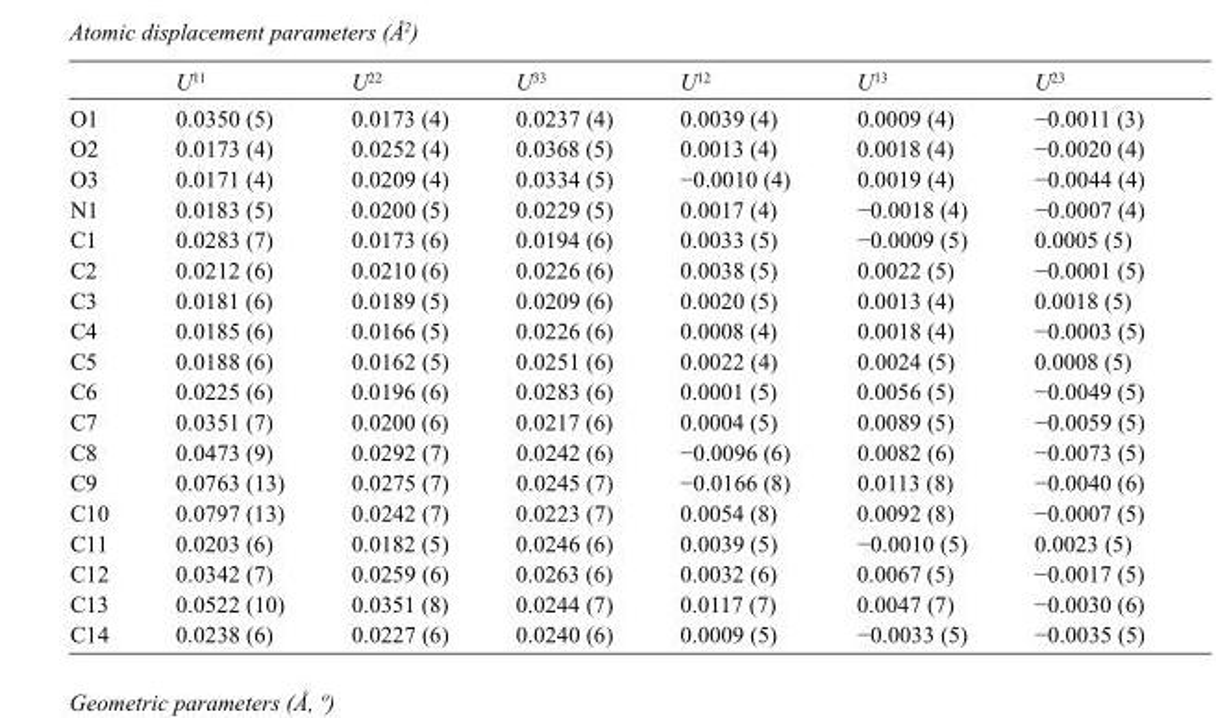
<table><thead><tr><td></td><td>U<sup>11</sup></td><td>U<sup>22</sup></td><td>U<sup>33</sup></td><td>U<sup>12</sup></td><td>U<sup>13</sup></td><td>U<sup>23</sup></td></tr></thead><tbody><tr><td>O1</td><td>0.0350 (5)</td><td>0.0173 (4)</td><td>0.0237 (4)</td><td>0.0039 (4)</td><td>0.0009 (4)</td><td>−0.0011 (3)</td></tr><tr><td>O2</td><td>0.0173 (4)</td><td>0.0252 (4)</td><td>0.0368 (5)</td><td>0.0013 (4)</td><td>0.0018 (4)</td><td>−0.0020 (4)</td></tr><tr><td>O3</td><td>0.0171 (4)</td><td>0.0209 (4)</td><td>0.0334 (5)</td><td>−0.0010 (4)</td><td>0.0019 (4)</td><td>−0.0044 (4)</td></tr><tr><td>N1</td><td>0.0183 (5)</td><td>0.0200 (5)</td><td>0.0229 (5)</td><td>0.0017 (4)</td><td>−0.0018 (4)</td><td>−0.0007 (4)</td></tr><tr><td>C1</td><td>0.0283 (7)</td><td>0.0173 (6)</td><td>0.0194 (6)</td><td>0.0033 (5)</td><td>−0.0009 (5)</td><td>0.0005 (5)</td></tr><tr><td>C2</td><td>0.0212 (6)</td><td>0.0210 (6)</td><td>0.0226 (6)</td><td>0.0038 (5)</td><td>0.0022 (5)</td><td>−0.0001 (5)</td></tr><tr><td>C3</td><td>0.0181 (6)</td><td>0.0189 (5)</td><td>0.0209 (6)</td><td>0.0020 (5)</td><td>0.0013 (4)</td><td>0.0018 (5)</td></tr><tr><td>C4</td><td>0.0185 (6)</td><td>0.0166 (5)</td><td>0.0226 (6)</td><td>0.0008 (4)</td><td>0.0018 (4)</td><td>−0.0003 (5)</td></tr><tr><td>C5</td><td>0.0188 (6)</td><td>0.0162 (5)</td><td>0.0251 (6)</td><td>0.0022 (4)</td><td>0.0024 (5)</td><td>0.0008 (5)</td></tr><tr><td>C6</td><td>0.0225 (6)</td><td>0.0196 (6)</td><td>0.0283 (6)</td><td>0.0001 (5)</td><td>0.0056 (5)</td><td>−0.0049 (5)</td></tr><tr><td>C7</td><td>0.0351 (7)</td><td>0.0200 (6)</td><td>0.0217 (6)</td><td>0.0004 (5)</td><td>0.0089 (5)</td><td>−0.0059 (5)</td></tr><tr><td>C8</td><td>0.0473 (9)</td><td>0.0292 (7)</td><td>0.0242 (6)</td><td>−0.0096 (6)</td><td>0.0082 (6)</td><td>−0.0073 (5)</td></tr><tr><td>C9</td><td>0.0763 (13)</td><td>0.0275 (7)</td><td>0.0245 (7)</td><td>−0.0166 (8)</td><td>0.0113 (8)</td><td>−0.0040 (6)</td></tr><tr><td>C10</td><td>0.0797 (13)</td><td>0.0242 (7)</td><td>0.0223 (7)</td><td>0.0054 (8)</td><td>0.0092 (8)</td><td>−0.0007 (5)</td></tr><tr><td>C11</td><td>0.0203 (6)</td><td>0.0182 (5)</td><td>0.0246 (6)</td><td>0.0039 (5)</td><td>−0.0010 (5)</td><td>0.0023 (5)</td></tr><tr><td>C12</td><td>0.0342 (7)</td><td>0.0259 (6)</td><td>0.0263 (6)</td><td>0.0032 (6)</td><td>0.0067 (5)</td><td>−0.0017 (5)</td></tr><tr><td>C13</td><td>0.0522 (10)</td><td>0.0351 (8)</td><td>0.0244 (7)</td><td>0.0117 (7)</td><td>0.0047 (7)</td><td>−0.0030 (6)</td></tr><tr><td>C14</td><td>0.0238 (6)</td><td>0.0227 (6)</td><td>0.0240 (6)</td><td>0.0009 (5)</td><td>−0.0033 (5)</td><td>−0.0035 (5)</td></tr></tbody></table>